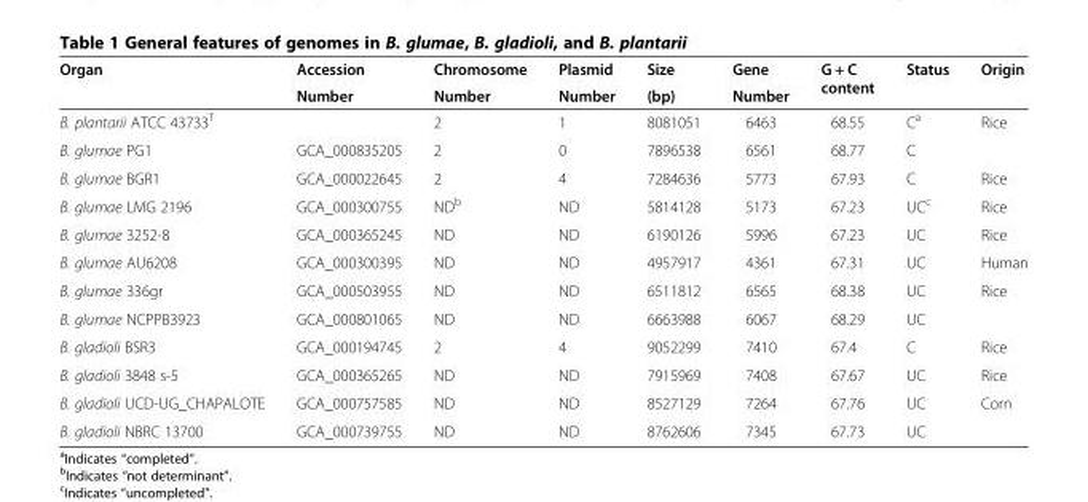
<table><thead><tr><td rowspan="2">Organ</td><td rowspan="2">Accession Number</td><td rowspan="2">Chromosome Number</td><td rowspan="2">Plasmid Number</td><td rowspan="2">Size (bp)</td><td rowspan="2">Gene Number</td><td rowspan="2">G + C content</td><td rowspan="2">Status</td><td rowspan="2">Origin</td></tr><tr></tr></thead><tbody><tr><td>B. plantarii ATCC 43733<sup>T</sup></td><td></td><td>2</td><td>1</td><td>8081051</td><td>6463</td><td>68.55</td><td>C<sup>a</sup></td><td>Rice</td></tr><tr><td>B. glumae PG1</td><td>GCA_000835205</td><td>2</td><td>0</td><td>7896538</td><td>6561</td><td>68.77</td><td>C</td><td></td></tr><tr><td>B. glumae BGR1</td><td>GCA_000022645</td><td>2</td><td>4</td><td>7284636</td><td>5773</td><td>67.93</td><td>C</td><td>Rice</td></tr><tr><td>B. glumae LMG 2196</td><td>GCA_000300755</td><td>ND<sup>b</sup></td><td>ND</td><td>5814128</td><td>5173</td><td>67.23</td><td>UC<sup>c</sup></td><td>Rice</td></tr><tr><td>B. glumae 3252-8</td><td>GCA_000365245</td><td>ND</td><td>ND</td><td>6190126</td><td>5996</td><td>67.23</td><td>UC</td><td>Rice</td></tr><tr><td>B. glumae AU6208</td><td>GCA_000300395</td><td>ND</td><td>ND</td><td>4957917</td><td>4361</td><td>67.31</td><td>UC</td><td>Human</td></tr><tr><td>B. glumae 336gr</td><td>GCA_000503955</td><td>ND</td><td>ND</td><td>6511812</td><td>6565</td><td>68.38</td><td>UC</td><td>Rice</td></tr><tr><td>B. glumae NCPPB3923</td><td>GCA_000801065</td><td>ND</td><td>ND</td><td>6663988</td><td>6067</td><td>68.29</td><td>UC</td><td></td></tr><tr><td>B. gladioli BSR3</td><td>GCA_000194745</td><td>2</td><td>4</td><td>9052299</td><td>7410</td><td>67.4</td><td>C</td><td>Rice</td></tr><tr><td>B. gladioli 3848 s-5</td><td>GCA_000365265</td><td>ND</td><td>ND</td><td>7915969</td><td>7408</td><td>67.67</td><td>UC</td><td>Rice</td></tr><tr><td>B. gladioli UCD-UG_CHAPALOTE</td><td>GCA_000757585</td><td>ND</td><td>ND</td><td>8527129</td><td>7264</td><td>67.76</td><td>UC</td><td>Corn</td></tr><tr><td>B. gladioli NBRC 13700</td><td>GCA_000739755</td><td>ND</td><td>ND</td><td>8762606</td><td>7345</td><td>67.73</td><td>UC</td><td></td></tr></tbody></table>